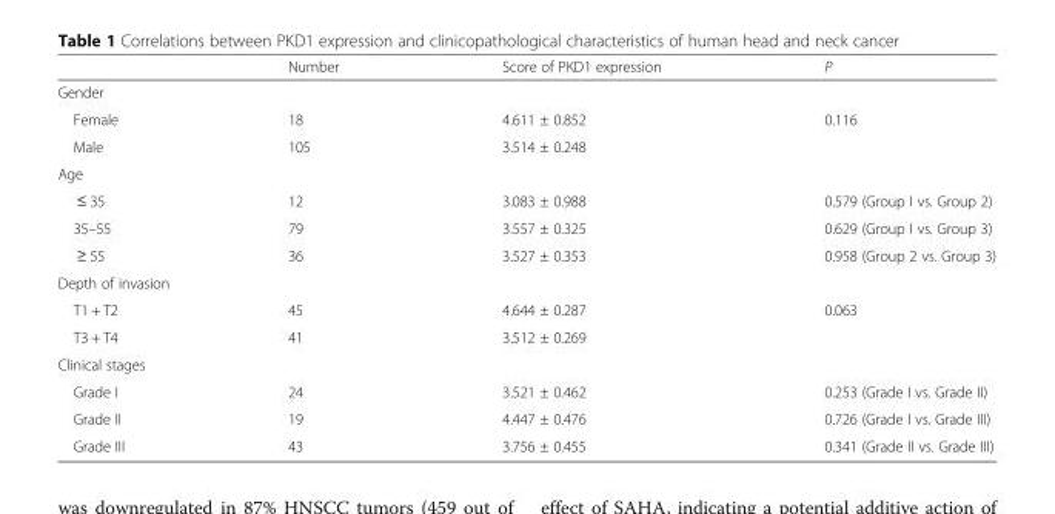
<table><thead><tr><td></td><td>Number</td><td>Score of PKD1 expression</td><td>P</td></tr></thead><tbody><tr><td colspan="4">Gender</td></tr><tr><td>Female</td><td>18</td><td>4.611 ± 0.852</td><td rowspan="2">0.116</td></tr><tr><td>Male</td><td>105</td><td>3.514 ± 0.248</td></tr><tr><td colspan="4">Age</td></tr><tr><td>≤ 35</td><td>12</td><td>3.083 ± 0.988</td><td>0.579 (Group I vs. Group 2)</td></tr><tr><td>35–55</td><td>79</td><td>3.557 ± 0.325</td><td>0.629 (Group I vs. Group 3)</td></tr><tr><td>≥ 55</td><td>36</td><td>3.527 ± 0.353</td><td>0.958 (Group 2 vs. Group 3)</td></tr><tr><td colspan="4">Depth of invasion</td></tr><tr><td>T1 + T2</td><td>45</td><td>4.644 ± 0.287</td><td rowspan="2">0.063</td></tr><tr><td>T3 + T4</td><td>41</td><td>3.512 ± 0.269</td></tr><tr><td colspan="4">Clinical stages</td></tr><tr><td>Grade I</td><td>24</td><td>3.521 ± 0.462</td><td>0.253 (Grade I vs. Grade II)</td></tr><tr><td>Grade II</td><td>19</td><td>4.447 ± 0.476</td><td>0.726 (Grade I vs. Grade III)</td></tr><tr><td>Grade III</td><td>43</td><td>3.756 ± 0.455</td><td>0.341 (Grade II vs. Grade III)</td></tr></tbody></table>